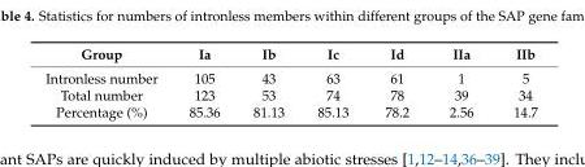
<table><thead><tr><td>Group</td><td>Ia</td><td>Ib</td><td>Ic</td><td>Id</td><td>IIa</td><td>IIb</td></tr></thead><tbody><tr><td>Intronless number</td><td>105</td><td>43</td><td>63</td><td>61</td><td>1</td><td>5</td></tr><tr><td>Total number</td><td>123</td><td>53</td><td>74</td><td>78</td><td>39</td><td>34</td></tr><tr><td>Percentage (%)</td><td>85.36</td><td>81.13</td><td>85.13</td><td>78.2</td><td>2.56</td><td>14.7</td></tr></tbody></table>